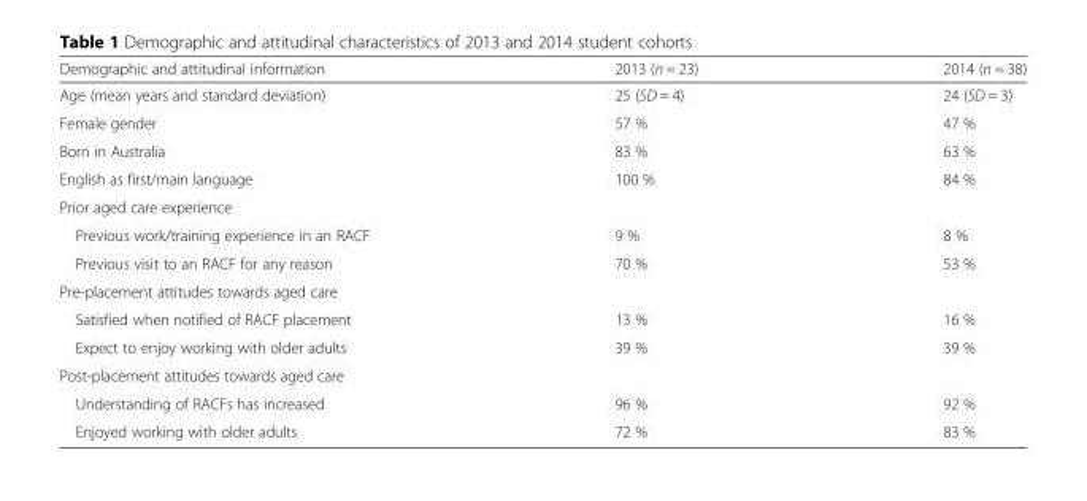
<table><thead><tr><td>Demographic and attitudinal information</td><td>2013 (n = 23)</td><td>2014 (n = 38)</td></tr></thead><tbody><tr><td>Age (mean years and standard deviation)</td><td>25 (SD = 4)</td><td>24 (SD = 3)</td></tr><tr><td>Female gender</td><td>57 %</td><td>47 %</td></tr><tr><td>Born in Australia</td><td>83 %</td><td>63 %</td></tr><tr><td>English as first/main language</td><td>100 %</td><td>84 %</td></tr><tr><td colspan="3">Prior aged care experience</td></tr><tr><td>Previous work/training experience in an RACF</td><td>9 %</td><td>8 %</td></tr><tr><td>Previous visit to an RACF for any reason</td><td>70 %</td><td>53 %</td></tr><tr><td colspan="3">Pre-placement attitudes towards aged care</td></tr><tr><td>Satisfied when notified of RACF placement</td><td>13 %</td><td>16 %</td></tr><tr><td>Expect to enjoy working with older adults</td><td>39 %</td><td>39 %</td></tr><tr><td colspan="3">Post-placement attitudes towards aged care</td></tr><tr><td>Understanding of RACFs has increased</td><td>96 %</td><td>92 %</td></tr><tr><td>Enjoyed working with older adults</td><td>72 %</td><td>83 %</td></tr></tbody></table>